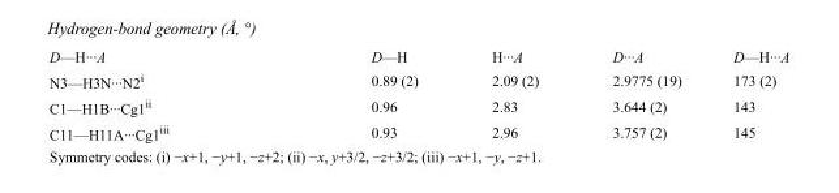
<table><tbody><tr><td>D—H···A</td><td>D—H</td><td>H···A</td><td>D···A</td><td>D—H···A</td></tr><tr><td>N3—H3N···N2<sup>i</sup></td><td>0.89 (2)</td><td>2.09 (2)</td><td>2.9775 (19)</td><td>173 (2)</td></tr><tr><td>C1—H1B···Cg1<sup>ii</sup></td><td>0.96</td><td>2.83</td><td>3.644 (2)</td><td>143</td></tr><tr><td>C11—H11A···Cg1<sup>iii</sup></td><td>0.93</td><td>2.96</td><td>3.757 (2)</td><td>145</td></tr></tbody></table>